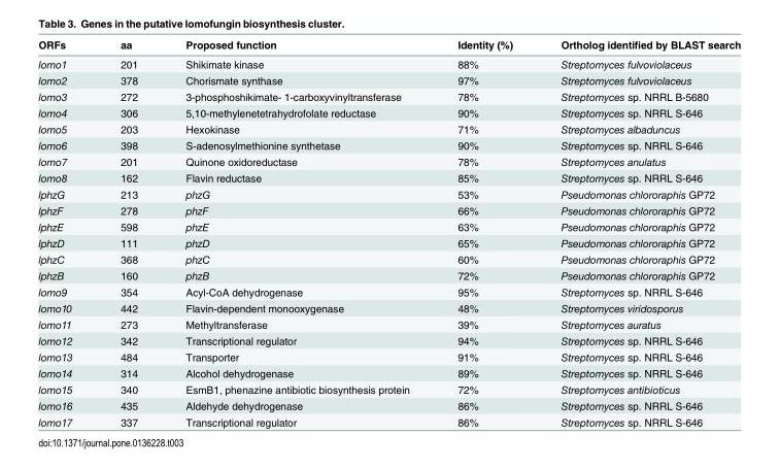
<table><thead><tr><td>ORFs</td><td>aa</td><td>Proposed function</td><td>Identity (%)</td><td>Ortholog identified by BLAST search</td></tr></thead><tbody><tr><td>lomo1</td><td>201</td><td>Shikimate kinase</td><td>88%</td><td>Streptomyces fulvoviolaceus</td></tr><tr><td>lomo2</td><td>378</td><td>Chorismate synthase</td><td>97%</td><td>Streptomyces fulvoviolaceus</td></tr><tr><td>lomo3</td><td>272</td><td>3-phosphoshikimate- 1-carboxyvinyltransferase</td><td>78%</td><td>Streptomyces sp. NRRL B-5680</td></tr><tr><td>lomo4</td><td>306</td><td>5,10-methylenetetrahydrofolate reductase</td><td>90%</td><td>Streptomyces sp. NRRL S-646</td></tr><tr><td>lomo5</td><td>203</td><td>Hexokinase</td><td>71%</td><td>Streptomyces albaduncus</td></tr><tr><td>lomo6</td><td>398</td><td>S-adenosylmethionine synthetase</td><td>90%</td><td>Streptomyces sp. NRRL S-646</td></tr><tr><td>lomo7</td><td>201</td><td>Quinone oxidoreductase</td><td>78%</td><td>Streptomyces anulatus</td></tr><tr><td>lomo8</td><td>162</td><td>Flavin reductase</td><td>85%</td><td>Streptomyces sp. NRRL S-646</td></tr><tr><td>lphzG</td><td>213</td><td>phzG</td><td>53%</td><td>Pseudomonas chlororaphis GP72</td></tr><tr><td>lphzF</td><td>278</td><td>phzF</td><td>66%</td><td>Pseudomonas chlororaphis GP72</td></tr><tr><td>lphzE</td><td>598</td><td>phzE</td><td>63%</td><td>Pseudomonas chlororaphis GP72</td></tr><tr><td>lphzD</td><td>111</td><td>phzD</td><td>65%</td><td>Pseudomonas chlororaphis GP72</td></tr><tr><td>lphzC</td><td>368</td><td>phzC</td><td>60%</td><td>Pseudomonas chlororaphis GP72</td></tr><tr><td>lphzB</td><td>160</td><td>phzB</td><td>72%</td><td>Pseudomonas chlororaphis GP72</td></tr><tr><td>lomo9</td><td>354</td><td>Acyl-CoA dehydrogenase</td><td>95%</td><td>Streptomyces sp. NRRL S-646</td></tr><tr><td>lomo10</td><td>442</td><td>Flavin-dependent monooxygenase</td><td>48%</td><td>Streptomyces viridosporus</td></tr><tr><td>lomo11</td><td>273</td><td>Methyltransferase</td><td>39%</td><td>Streptomyces auratus</td></tr><tr><td>lomo12</td><td>342</td><td>Transcriptional regulator</td><td>94%</td><td>Streptomyces sp. NRRL S-646</td></tr><tr><td>lomo13</td><td>484</td><td>Transporter</td><td>91%</td><td>Streptomyces sp. NRRL S-646</td></tr><tr><td>lomo14</td><td>314</td><td>Alcohol dehydrogenase</td><td>89%</td><td>Streptomyces sp. NRRL S-646</td></tr><tr><td>lomo15</td><td>340</td><td>EsmB1, phenazine antibiotic biosynthesis protein</td><td>72%</td><td>Streptomyces antibioticus</td></tr><tr><td>lomo16</td><td>435</td><td>Aldehyde dehydrogenase</td><td>86%</td><td>Streptomyces sp. NRRL S-646</td></tr><tr><td>lomo17</td><td>337</td><td>Transcriptional regulator</td><td>86%</td><td>Streptomyces sp. NRRL S-646</td></tr></tbody></table>